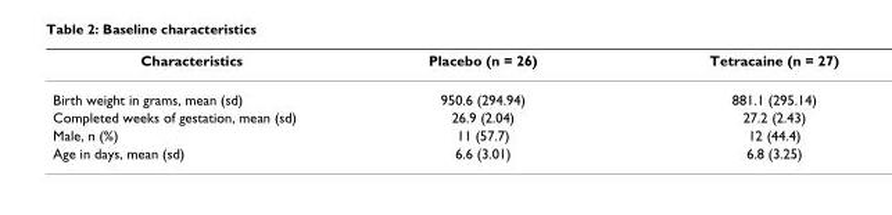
<table><thead><tr><td>Characteristics</td><td>Placebo (n = 26)</td><td>Tetracaine (n = 27)</td></tr></thead><tbody><tr><td>Birth weight in grams, mean (sd)</td><td>950.6 (294.94)</td><td>881.1 (295.14)</td></tr><tr><td>Completed weeks of gestation, mean (sd)</td><td>26.9 (2.04)</td><td>27.2 (2.43)</td></tr><tr><td>Male, n (%)</td><td>11 (57.7)</td><td>12 (44.4)</td></tr><tr><td>Age in days, mean (sd)</td><td>6.6 (3.01)</td><td>6.8 (3.25)</td></tr></tbody></table>